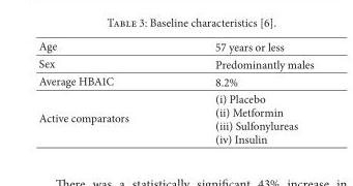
<table><thead><tr><td>Age</td><td>57 years or less</td></tr></thead><tbody><tr><td>Sex</td><td>Predominantly males</td></tr><tr><td>Average HBA1C</td><td>8.2%</td></tr><tr><td>Active comparators</td><td>(i) Placebo (ii) Metformin (iii) Sulfonylureas (iv) Insulin</td></tr></tbody></table>